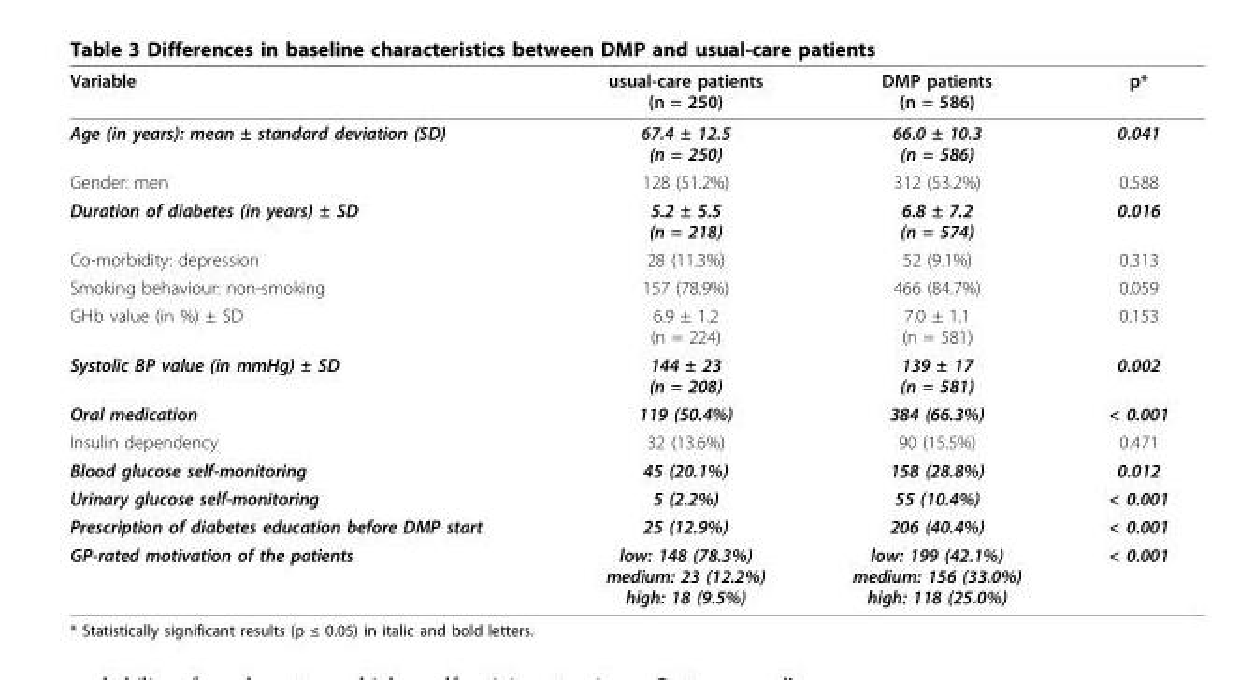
<table><thead><tr><td>Variable</td><td>usual-care patients (n = 250)</td><td>DMP patients (n = 586)</td><td>p*</td></tr></thead><tbody><tr><td>Age (in years): mean ± standard deviation (SD)</td><td>67.4 ± 12.5 (n = 250)</td><td>66.0 ± 10.3 (n = 586)</td><td>0.041</td></tr><tr><td>Gender: men</td><td>128 (51.2%)</td><td>312 (53.2%)</td><td>0.588</td></tr><tr><td>Duration of diabetes (in years) ± SD</td><td>5.2 ± 5.5 (n = 218)</td><td>6.8 ± 7.2 (n = 574)</td><td>0.016</td></tr><tr><td>Co-morbidity: depression</td><td>28 (11.3%)</td><td>52 (9.1%)</td><td>0.313</td></tr><tr><td>Smoking behaviour: non-smoking</td><td>157 (78.9%)</td><td>466 (84.7%)</td><td>0.059</td></tr><tr><td>GHb value (in %) ± SD</td><td>6.9 ± 1.2 (n = 224)</td><td>7.0 ± 1.1 (n = 581)</td><td>0.153</td></tr><tr><td>Systolic BP value (in mmHg) ± SD</td><td>144 ± 23 (n = 208)</td><td>139 ± 17 (n = 581)</td><td>0.002</td></tr><tr><td>Oral medication</td><td>119 (50.4%)</td><td>384 (66.3%)</td><td>&lt; 0.001</td></tr><tr><td>Insulin dependency</td><td>32 (13.6%)</td><td>90 (15.5%)</td><td>0.471</td></tr><tr><td>Blood glucose self-monitoring</td><td>45 (20.1%)</td><td>158 (28.8%)</td><td>0.012</td></tr><tr><td>Urinary glucose self-monitoring</td><td>5 (2.2%)</td><td>55 (10.4%)</td><td>&lt; 0.001</td></tr><tr><td>Prescription of diabetes education before DMP start</td><td>25 (12.9%)</td><td>206 (40.4%)</td><td>&lt; 0.001</td></tr><tr><td>GP-rated motivation of the patients</td><td>low: 148 (78.3%) medium: 23 (12.2%) high: 18 (9.5%)</td><td>low: 199 (42.1%) medium: 156 (33.0%) high: 118 (25.0%)</td><td>&lt; 0.001</td></tr></tbody></table>